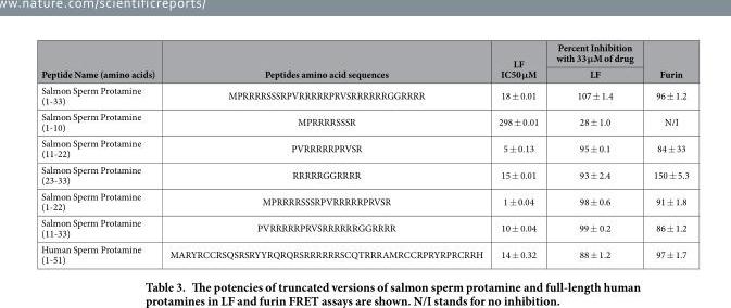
<table><thead><tr><td rowspan="2">Peptide Name (amino acids)</td><td rowspan="2">Peptides amino acid sequences</td><td rowspan="2">LF IC50 μM</td><td rowspan="2">Percent Inhibition with 33 μM of drug LF</td><td rowspan="2">Furin</td></tr><tr></tr></thead><tbody><tr><td>Salmon Sperm Protamine (1-33)</td><td>MPRRRRSSSRPVRRRRRPRVSRRRRRRGGRRRR</td><td>18 ± 0.01</td><td>107 ± 1.4</td><td>96 ± 1.2</td></tr><tr><td>Salmon Sperm Protamine (1-10)</td><td>MPRRRRSSSR</td><td>298 ± 0.01</td><td>28 ± 1.0</td><td>N/I</td></tr><tr><td>Salmon Sperm Protamine (11-22)</td><td>PVRRRRRPRVSR</td><td>5 ± 0.13</td><td>95 ± 0.1</td><td>84 ± 33</td></tr><tr><td>Salmon Sperm Protamine (23-33)</td><td>RRRRRGGRRRR</td><td>15 ± 0.01</td><td>93 ± 2.4</td><td>150 ± 5.3</td></tr><tr><td>Salmon Sperm Protamine (1-22)</td><td>MPRRRRSSSRPVRRRRRPRVSR</td><td>1 ± 0.04</td><td>98 ± 0.6</td><td>91 ± 1.8</td></tr><tr><td>Salmon Sperm Protamine (11-33)</td><td>PVRRRRRPRVSRRRRRRGGRRRR</td><td>10 ± 0.04</td><td>99 ± 0.2</td><td>86 ± 1.2</td></tr><tr><td>Human Sperm Protamine (1-51)</td><td>MARYRCCRSQSRSRYYRQRQRSRRRRRRSCQTRRRAMRCCRPRYRPRCRRH</td><td>14 ± 0.32</td><td>88 ± 1.2</td><td>97 ± 1.7</td></tr></tbody></table>